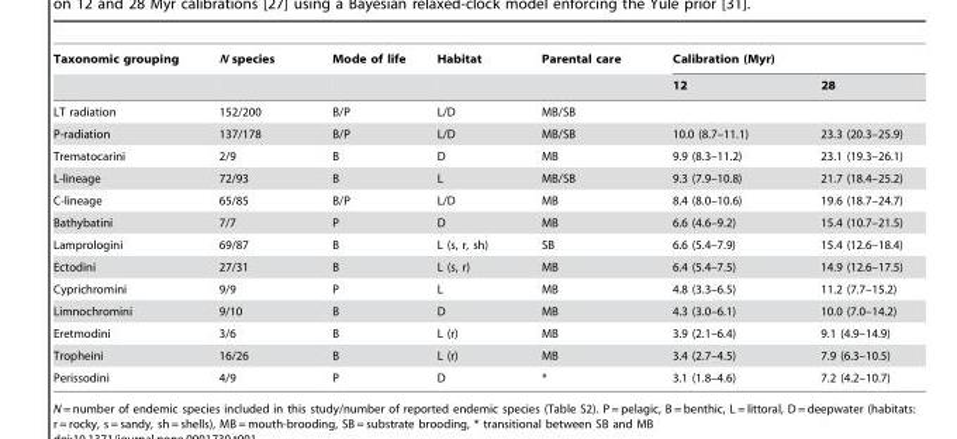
<table><thead><tr><td rowspan="2">Taxonomic grouping</td><td rowspan="2">N species</td><td rowspan="2">Mode of life</td><td rowspan="2">Habitat</td><td rowspan="2">Parental care</td><td colspan="2">Calibration (Myr)</td></tr><tr><td>12</td><td>28</td></tr></thead><tbody><tr><td>LT radiation</td><td>152/200</td><td>B/P</td><td>L/D</td><td>MB/SB</td><td></td><td></td></tr><tr><td>P-radiation</td><td>137/178</td><td>B/P</td><td>L/D</td><td>MB/SB</td><td>10.0 (8.7–11.1)</td><td>23.3 (20.3–25.9)</td></tr><tr><td>Trematocarini</td><td>2/9</td><td>B</td><td>D</td><td>MB</td><td>9.9 (8.3–11.2)</td><td>23.1 (19.3–26.1)</td></tr><tr><td>L-lineage</td><td>72/93</td><td>B</td><td>L</td><td>MB/SB</td><td>9.3 (7.9–10.8)</td><td>21.7 (18.4–25.2)</td></tr><tr><td>C-lineage</td><td>65/85</td><td>B/P</td><td>L/D</td><td>MB</td><td>8.4 (8.0–10.6)</td><td>19.6 (18.7–24.7)</td></tr><tr><td>Bathybatini</td><td>7/7</td><td>P</td><td>D</td><td>MB</td><td>6.6 (4.6–9.2)</td><td>15.4 (10.7–21.5)</td></tr><tr><td>Lamprologini</td><td>69/87</td><td>B</td><td>L (s, r, sh)</td><td>SB</td><td>6.6 (5.4–7.9)</td><td>15.4 (12.6–18.4)</td></tr><tr><td>Ectodini</td><td>27/31</td><td>B</td><td>L (s, r)</td><td>MB</td><td>6.4 (5.4–7.5)</td><td>14.9 (12.6–17.5)</td></tr><tr><td>Cyprichromini</td><td>9/9</td><td>P</td><td>L</td><td>MB</td><td>4.8 (3.3–6.5)</td><td>11.2 (7.7–15.2)</td></tr><tr><td>Limnochromini</td><td>9/10</td><td>B</td><td>D</td><td>MB</td><td>4.3 (3.0–6.1)</td><td>10.0 (7.0–14.2)</td></tr><tr><td>Eretmodini</td><td>3/6</td><td>B</td><td>L (r)</td><td>MB</td><td>3.9 (2.1–6.4)</td><td>9.1 (4.9–14.9)</td></tr><tr><td>Tropheini</td><td>16/26</td><td>B</td><td>L (r)</td><td>MB</td><td>3.4 (2.7–4.5)</td><td>7.9 (6.3–10.5)</td></tr><tr><td>Perissodini</td><td>4/9</td><td>P</td><td>D</td><td>*</td><td>3.1 (1.8–4.6)</td><td>7.2 (4.2–10.7)</td></tr></tbody></table>